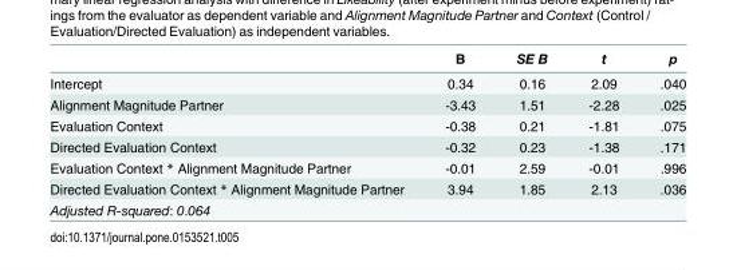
<table><thead><tr><td></td><td>B</td><td>SE B</td><td>t</td><td>p</td></tr></thead><tbody><tr><td>Intercept</td><td>0.34</td><td>0.16</td><td>2.09</td><td>.040</td></tr><tr><td>Alignment Magnitude Partner</td><td>-3.43</td><td>1.51</td><td>-2.28</td><td>.025</td></tr><tr><td>Evaluation Context</td><td>-0.38</td><td>0.21</td><td>-1.81</td><td>.075</td></tr><tr><td>Directed Evaluation Context</td><td>-0.32</td><td>0.23</td><td>-1.38</td><td>.171</td></tr><tr><td>Evaluation Context * Alignment Magnitude Partner</td><td>-0.01</td><td>2.59</td><td>-0.01</td><td>.996</td></tr><tr><td>Directed Evaluation Context * Alignment Magnitude Partner</td><td>3.94</td><td>1.85</td><td>2.13</td><td>.036</td></tr><tr><td>Adjusted R-squared: 0.064</td><td colspan="4"></td></tr></tbody></table>